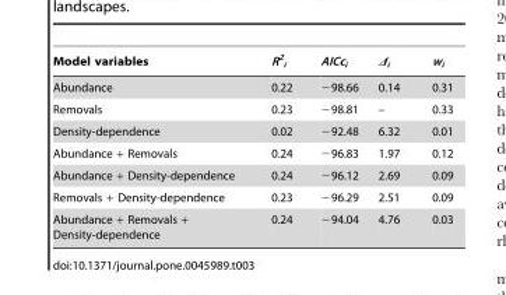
<table><thead><tr><td>Model variables</td><td>R<sup>2</sup> <sub>i</sub></td><td>AICc<sub>i</sub></td><td>Δ<sub>i</sub></td><td>w<sub>i</sub></td></tr></thead><tbody><tr><td>Abundance</td><td>0.22</td><td>−98.66</td><td>0.14</td><td>0.31</td></tr><tr><td>Removals</td><td>0.23</td><td>−98.81</td><td>–</td><td>0.33</td></tr><tr><td>Density-dependence</td><td>0.02</td><td>−92.48</td><td>6.32</td><td>0.01</td></tr><tr><td>Abundance + Removals</td><td>0.24</td><td>−96.83</td><td>1.97</td><td>0.12</td></tr><tr><td>Abundance + Density-dependence</td><td>0.24</td><td>−96.12</td><td>2.69</td><td>0.09</td></tr><tr><td>Removals + Density-dependence</td><td>0.23</td><td>−96.29</td><td>2.51</td><td>0.09</td></tr><tr><td>Abundance + Removals + Density-dependence</td><td>0.24</td><td>−94.04</td><td>4.76</td><td>0.03</td></tr></tbody></table>